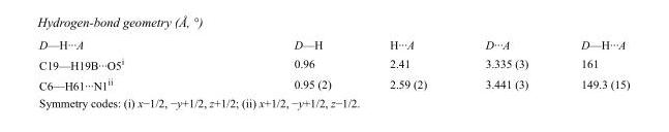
<table><tbody><tr><td>D—H···A</td><td>D—H</td><td>H···A</td><td>D···A</td><td>D—H···A</td></tr><tr><td>C19—H19B···O5<sup>i</sup></td><td>0.96</td><td>2.41</td><td>3.335 (3)</td><td>161</td></tr><tr><td>C6—H61···N1<sup>ii</sup></td><td>0.95 (2)</td><td>2.59 (2)</td><td>3.441 (3)</td><td>149.3 (15)</td></tr></tbody></table>